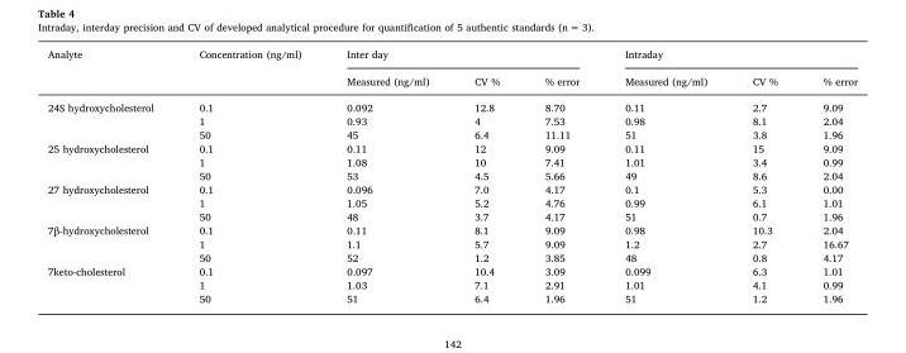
<table><thead><tr><td rowspan="2">Analyte</td><td rowspan="2">Concentration (ng/ml)</td><td colspan="3">Inter day</td><td colspan="3">Intraday</td></tr><tr><td>Measured (ng/ml)</td><td>CV %</td><td>% error</td><td>Measured (ng/ml)</td><td>CV %</td><td>% error</td></tr></thead><tbody><tr><td rowspan="3">24S hydroxycholesterol</td><td>0.1</td><td>0.092</td><td>12.8</td><td>8.70</td><td>0.11</td><td>2.7</td><td>9.09</td></tr><tr><td>1</td><td>0.93</td><td>4</td><td>7.53</td><td>0.98</td><td>8.1</td><td>2.04</td></tr><tr><td>50</td><td>45</td><td>6.4</td><td>11.11</td><td>51</td><td>3.8</td><td>1.96</td></tr><tr><td rowspan="3">25 hydroxycholesterol</td><td>0.1</td><td>0.11</td><td>12</td><td>9.09</td><td>0.11</td><td>15</td><td>9.09</td></tr><tr><td>1</td><td>1.08</td><td>10</td><td>7.41</td><td>1.01</td><td>3.4</td><td>0.99</td></tr><tr><td>50</td><td>53</td><td>4.5</td><td>5.66</td><td>49</td><td>8.6</td><td>2.04</td></tr><tr><td rowspan="3">27 hydroxycholesterol</td><td>0.1</td><td>0.096</td><td>7.0</td><td>4.17</td><td>0.1</td><td>5.3</td><td>0.00</td></tr><tr><td>1</td><td>1.05</td><td>5.2</td><td>4.76</td><td>0.99</td><td>6.1</td><td>1.01</td></tr><tr><td>50</td><td>48</td><td>3.7</td><td>4.17</td><td>51</td><td>0.7</td><td>1.96</td></tr><tr><td rowspan="3">7β-hydroxycholesterol</td><td>0.1</td><td>0.11</td><td>8.1</td><td>9.09</td><td>0.98</td><td>10.3</td><td>2.04</td></tr><tr><td>1</td><td>1.1</td><td>5.7</td><td>9.09</td><td>1.2</td><td>2.7</td><td>16.67</td></tr><tr><td>50</td><td>52</td><td>1.2</td><td>3.85</td><td>48</td><td>0.8</td><td>4.17</td></tr><tr><td rowspan="3">7keto-cholesterol</td><td>0.1</td><td>0.097</td><td>10.4</td><td>3.09</td><td>0.099</td><td>6.3</td><td>1.01</td></tr><tr><td>1</td><td>1.03</td><td>7.1</td><td>2.91</td><td>1.01</td><td>4.1</td><td>0.99</td></tr><tr><td>50</td><td>51</td><td>6.4</td><td>1.96</td><td>51</td><td>1.2</td><td>1.96</td></tr></tbody></table>